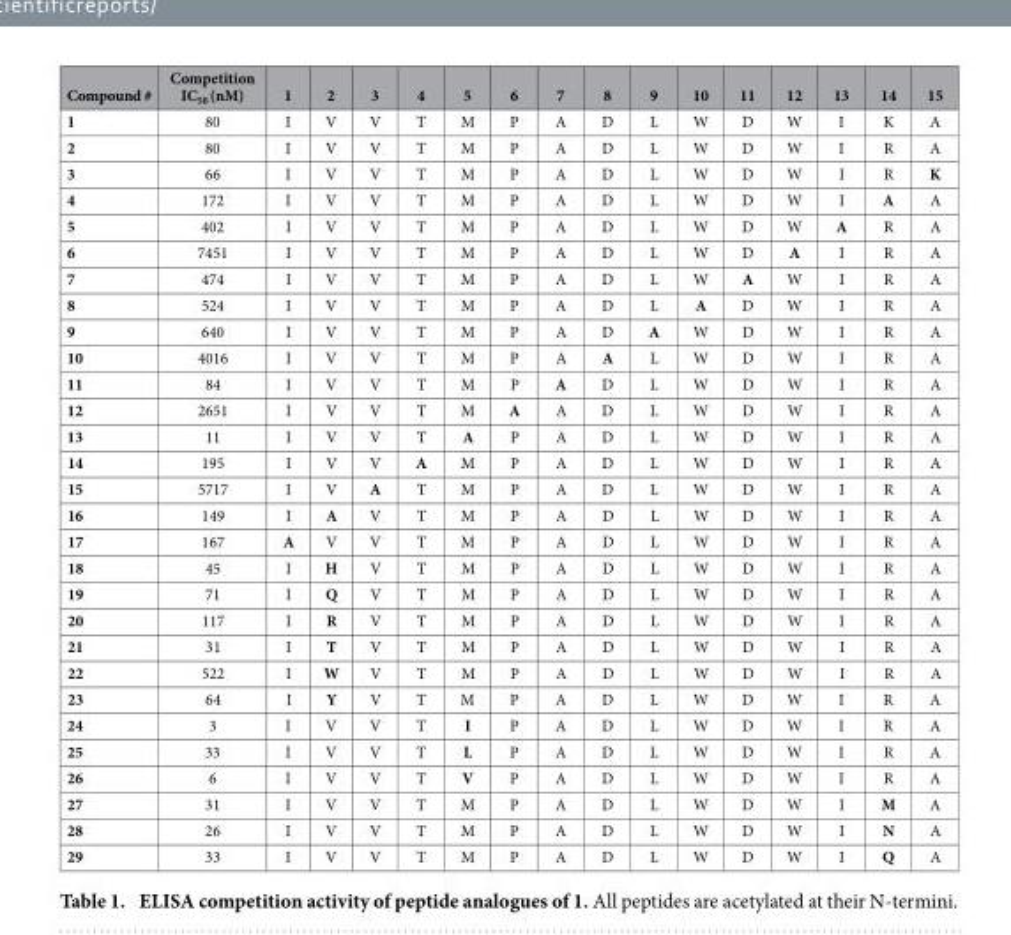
<table><thead><tr><td>Compound #</td><td>Competition IC<sub>50</sub> (nM)</td><td>1</td><td>2</td><td>3</td><td>4</td><td>5</td><td>6</td><td>7</td><td>8</td><td>9</td><td>10</td><td>11</td><td>12</td><td>13</td><td>14</td><td>15</td></tr></thead><tbody><tr><td>1</td><td>80</td><td>I</td><td>V</td><td>V</td><td>T</td><td>M</td><td>P</td><td>A</td><td>D</td><td>L</td><td>W</td><td>D</td><td>W</td><td>I</td><td>K</td><td>A</td></tr><tr><td>2</td><td>80</td><td>I</td><td>V</td><td>V</td><td>T</td><td>M</td><td>P</td><td>A</td><td>D</td><td>L</td><td>W</td><td>D</td><td>W</td><td>I</td><td>R</td><td>A</td></tr><tr><td>3</td><td>66</td><td>I</td><td>V</td><td>V</td><td>T</td><td>M</td><td>P</td><td>A</td><td>D</td><td>L</td><td>W</td><td>D</td><td>W</td><td>I</td><td>R</td><td>K</td></tr><tr><td>4</td><td>172</td><td>I</td><td>V</td><td>V</td><td>T</td><td>M</td><td>P</td><td>A</td><td>D</td><td>L</td><td>W</td><td>D</td><td>W</td><td>I</td><td>A</td><td>A</td></tr><tr><td>5</td><td>402</td><td>I</td><td>V</td><td>V</td><td>T</td><td>M</td><td>P</td><td>A</td><td>D</td><td>L</td><td>W</td><td>D</td><td>W</td><td>A</td><td>R</td><td>A</td></tr><tr><td>6</td><td>7451</td><td>I</td><td>V</td><td>V</td><td>T</td><td>M</td><td>P</td><td>A</td><td>D</td><td>L</td><td>W</td><td>D</td><td>A</td><td>I</td><td>R</td><td>A</td></tr><tr><td>7</td><td>474</td><td>I</td><td>V</td><td>V</td><td>T</td><td>M</td><td>P</td><td>A</td><td>D</td><td>L</td><td>W</td><td>A</td><td>W</td><td>I</td><td>R</td><td>A</td></tr><tr><td>8</td><td>524</td><td>I</td><td>V</td><td>V</td><td>T</td><td>M</td><td>P</td><td>A</td><td>D</td><td>L</td><td>A</td><td>D</td><td>W</td><td>I</td><td>R</td><td>A</td></tr><tr><td>9</td><td>640</td><td>I</td><td>V</td><td>V</td><td>T</td><td>M</td><td>P</td><td>A</td><td>D</td><td>A</td><td>W</td><td>D</td><td>W</td><td>I</td><td>R</td><td>A</td></tr><tr><td>10</td><td>4016</td><td>I</td><td>V</td><td>V</td><td>T</td><td>M</td><td>P</td><td>A</td><td>A</td><td>L</td><td>W</td><td>D</td><td>W</td><td>I</td><td>R</td><td>A</td></tr><tr><td>11</td><td>84</td><td>I</td><td>V</td><td>V</td><td>T</td><td>M</td><td>P</td><td>A</td><td>D</td><td>L</td><td>W</td><td>D</td><td>W</td><td>I</td><td>R</td><td>A</td></tr><tr><td>12</td><td>2651</td><td>I</td><td>V</td><td>V</td><td>T</td><td>M</td><td>A</td><td>A</td><td>D</td><td>L</td><td>W</td><td>D</td><td>W</td><td>I</td><td>R</td><td>A</td></tr><tr><td>13</td><td>11</td><td>I</td><td>V</td><td>V</td><td>T</td><td>A</td><td>P</td><td>A</td><td>D</td><td>L</td><td>W</td><td>D</td><td>W</td><td>I</td><td>R</td><td>A</td></tr><tr><td>14</td><td>195</td><td>I</td><td>V</td><td>V</td><td>A</td><td>M</td><td>P</td><td>A</td><td>D</td><td>L</td><td>W</td><td>D</td><td>W</td><td>I</td><td>R</td><td>A</td></tr><tr><td>15</td><td>5717</td><td>I</td><td>V</td><td>A</td><td>T</td><td>M</td><td>P</td><td>A</td><td>D</td><td>L</td><td>W</td><td>D</td><td>W</td><td>I</td><td>R</td><td>A</td></tr><tr><td>16</td><td>149</td><td>I</td><td>A</td><td>V</td><td>T</td><td>M</td><td>P</td><td>A</td><td>D</td><td>L</td><td>W</td><td>D</td><td>W</td><td>I</td><td>R</td><td>A</td></tr><tr><td>17</td><td>167</td><td>A</td><td>V</td><td>V</td><td>T</td><td>M</td><td>P</td><td>A</td><td>D</td><td>L</td><td>W</td><td>D</td><td>W</td><td>I</td><td>R</td><td>A</td></tr><tr><td>18</td><td>45</td><td>I</td><td>H</td><td>V</td><td>T</td><td>M</td><td>P</td><td>A</td><td>D</td><td>L</td><td>W</td><td>D</td><td>W</td><td>I</td><td>R</td><td>A</td></tr><tr><td>19</td><td>71</td><td>I</td><td>Q</td><td>V</td><td>T</td><td>M</td><td>P</td><td>A</td><td>D</td><td>L</td><td>W</td><td>D</td><td>W</td><td>I</td><td>R</td><td>A</td></tr><tr><td>20</td><td>117</td><td>I</td><td>R</td><td>V</td><td>T</td><td>M</td><td>P</td><td>A</td><td>D</td><td>L</td><td>W</td><td>D</td><td>W</td><td>I</td><td>R</td><td>A</td></tr><tr><td>21</td><td>31</td><td>I</td><td>T</td><td>V</td><td>T</td><td>M</td><td>P</td><td>A</td><td>D</td><td>L</td><td>W</td><td>D</td><td>W</td><td>I</td><td>R</td><td>A</td></tr><tr><td>22</td><td>522</td><td>I</td><td>W</td><td>V</td><td>T</td><td>M</td><td>P</td><td>A</td><td>D</td><td>L</td><td>W</td><td>D</td><td>W</td><td>I</td><td>R</td><td>A</td></tr><tr><td>23</td><td>64</td><td>I</td><td>Y</td><td>V</td><td>T</td><td>M</td><td>P</td><td>A</td><td>D</td><td>L</td><td>W</td><td>D</td><td>W</td><td>I</td><td>R</td><td>A</td></tr><tr><td>24</td><td>3</td><td>I</td><td>V</td><td>V</td><td>T</td><td>I</td><td>P</td><td>A</td><td>D</td><td>L</td><td>W</td><td>D</td><td>W</td><td>I</td><td>R</td><td>A</td></tr><tr><td>25</td><td>33</td><td>I</td><td>V</td><td>V</td><td>T</td><td>L</td><td>P</td><td>A</td><td>D</td><td>L</td><td>W</td><td>D</td><td>W</td><td>I</td><td>R</td><td>A</td></tr><tr><td>26</td><td>6</td><td>I</td><td>V</td><td>V</td><td>T</td><td>V</td><td>P</td><td>A</td><td>D</td><td>L</td><td>W</td><td>D</td><td>W</td><td>I</td><td>R</td><td>A</td></tr><tr><td>27</td><td>31</td><td>I</td><td>V</td><td>V</td><td>T</td><td>M</td><td>P</td><td>A</td><td>D</td><td>L</td><td>W</td><td>D</td><td>W</td><td>I</td><td>M</td><td>A</td></tr><tr><td>28</td><td>26</td><td>I</td><td>V</td><td>V</td><td>T</td><td>M</td><td>P</td><td>A</td><td>D</td><td>L</td><td>W</td><td>D</td><td>W</td><td>I</td><td>N</td><td>A</td></tr><tr><td>29</td><td>33</td><td>I</td><td>V</td><td>V</td><td>T</td><td>M</td><td>P</td><td>A</td><td>D</td><td>L</td><td>W</td><td>D</td><td>W</td><td>I</td><td>Q</td><td>A</td></tr></tbody></table>